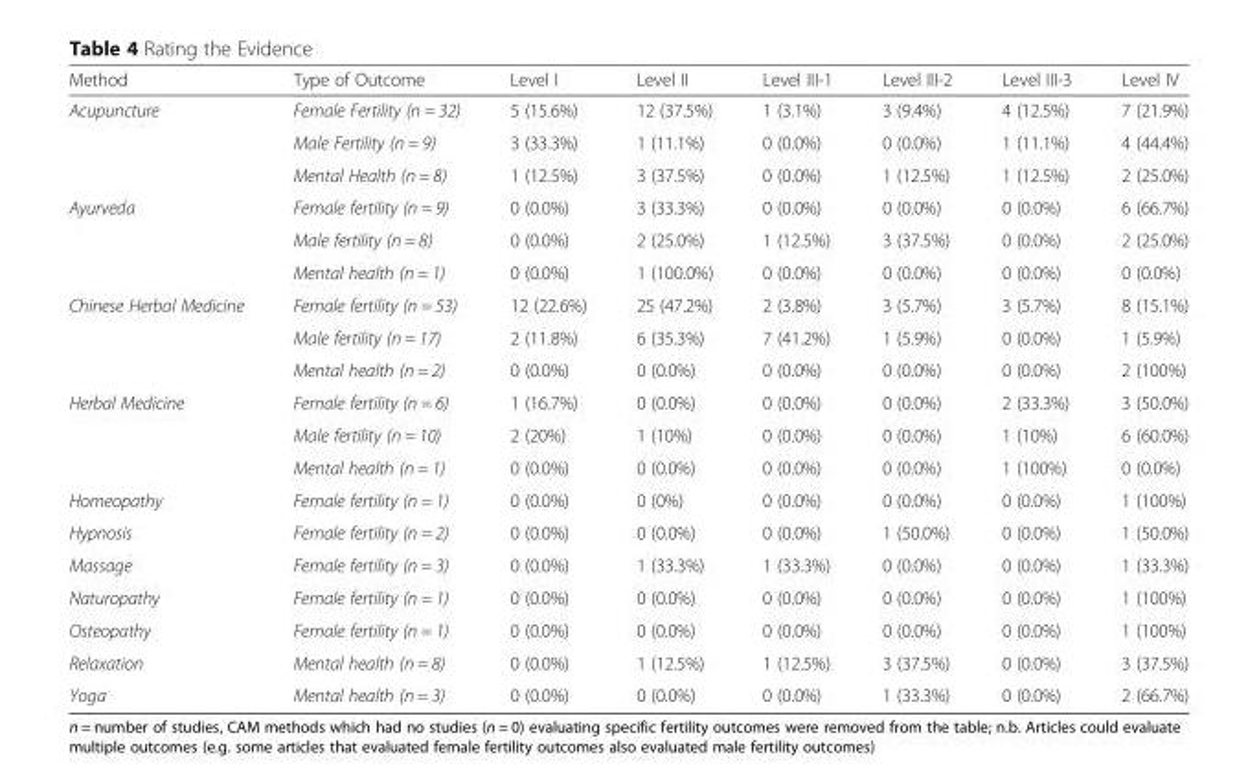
<table><thead><tr><td>Method</td><td>Type of Outcome</td><td>Level I</td><td>Level II</td><td>Level III-1</td><td>Level III-2</td><td>Level III-3</td><td>Level IV</td></tr></thead><tbody><tr><td rowspan="3">Acupuncture</td><td>Female Fertility (n = 32)</td><td>5 (15.6%)</td><td>12 (37.5%)</td><td>1 (3.1%)</td><td>3 (9.4%)</td><td>4 (12.5%)</td><td>7 (21.9%)</td></tr><tr><td>Male Fertility (n = 9)</td><td>3 (33.3%)</td><td>1 (11.1%)</td><td>0 (0.0%)</td><td>0 (0.0%)</td><td>1 (11.1%)</td><td>4 (44.4%)</td></tr><tr><td>Mental Health (n = 8)</td><td>1 (12.5%)</td><td>3 (37.5%)</td><td>0 (0.0%)</td><td>1 (12.5%)</td><td>1 (12.5%)</td><td>2 (25.0%)</td></tr><tr><td rowspan="3">Ayurveda</td><td>Female fertility (n = 9)</td><td>0 (0.0%)</td><td>3 (33.3%)</td><td>0 (0.0%)</td><td>0 (0.0%)</td><td>0 (0.0%)</td><td>6 (66.7%)</td></tr><tr><td>Male fertility (n = 8)</td><td>0 (0.0%)</td><td>2 (25.0%)</td><td>1 (12.5%)</td><td>3 (37.5%)</td><td>0 (0.0%)</td><td>2 (25.0%)</td></tr><tr><td>Mental health (n = 1)</td><td>0 (0.0%)</td><td>1 (100.0%)</td><td>0 (0.0%)</td><td>0 (0.0%)</td><td>0 (0.0%)</td><td>0 (0.0%)</td></tr><tr><td rowspan="3">Chinese Herbal Medicine</td><td>Female fertility (n = 53)</td><td>12 (22.6%)</td><td>25 (47.2%)</td><td>2 (3.8%)</td><td>3 (5.7%)</td><td>3 (5.7%)</td><td>8 (15.1%)</td></tr><tr><td>Male fertility (n = 17)</td><td>2 (11.8%)</td><td>6 (35.3%)</td><td>7 (41.2%)</td><td>1 (5.9%)</td><td>0 (0.0%)</td><td>1 (5.9%)</td></tr><tr><td>Mental health (n = 2)</td><td>0 (0.0%)</td><td>0 (0.0%)</td><td>0 (0.0%)</td><td>0 (0.0%)</td><td>0 (0.0%)</td><td>2 (100%)</td></tr><tr><td rowspan="3">Herbal Medicine</td><td>Female fertility (n = 6)</td><td>1 (16.7%)</td><td>0 (0.0%)</td><td>0 (0.0%)</td><td>0 (0.0%)</td><td>2 (33.3%)</td><td>3 (50.0%)</td></tr><tr><td>Male fertility (n = 10)</td><td>2 (20%)</td><td>1 (10%)</td><td>0 (0.0%)</td><td>0 (0.0%)</td><td>1 (10%)</td><td>6 (60.0%)</td></tr><tr><td>Mental health (n = 1)</td><td>0 (0.0%)</td><td>0 (0.0%)</td><td>0 (0.0%)</td><td>0 (0.0%)</td><td>1 (100%)</td><td>0 (0.0%)</td></tr><tr><td>Homeopathy</td><td>Female fertility (n = 1)</td><td>0 (0.0%)</td><td>0 (0%)</td><td>0 (0.0%)</td><td>0 (0.0%)</td><td>0 (0.0%)</td><td>1 (100%)</td></tr><tr><td>Hypnosis</td><td>Female fertility (n = 2)</td><td>0 (0.0%)</td><td>0 (0.0%)</td><td>0 (0.0%)</td><td>1 (50.0%)</td><td>0 (0.0%)</td><td>1 (50.0%)</td></tr><tr><td>Massage</td><td>Female fertility (n = 3)</td><td>0 (0.0%)</td><td>1 (33.3%)</td><td>1 (33.3%)</td><td>0 (0.0%)</td><td>0 (0.0%)</td><td>1 (33.3%)</td></tr><tr><td>Naturopathy</td><td>Female fertility (n = 1)</td><td>0 (0.0%)</td><td>0 (0.0%)</td><td>0 (0.0%)</td><td>0 (0.0%)</td><td>0 (0.0%)</td><td>1 (100%)</td></tr><tr><td>Osteopathy</td><td>Female fertility (n = 1)</td><td>0 (0.0%)</td><td>0 (0.0%)</td><td>0 (0.0%)</td><td>0 (0.0%)</td><td>0 (0.0%)</td><td>1 (100%)</td></tr><tr><td>Relaxation</td><td>Mental health (n = 8)</td><td>0 (0.0%)</td><td>1 (12.5%)</td><td>1 (12.5%)</td><td>3 (37.5%)</td><td>0 (0.0%)</td><td>3 (37.5%)</td></tr><tr><td>Yoga</td><td>Mental health (n = 3)</td><td>0 (0.0%)</td><td>0 (0.0%)</td><td>0 (0.0%)</td><td>1 (33.3%)</td><td>0 (0.0%)</td><td>2 (66.7%)</td></tr></tbody></table>